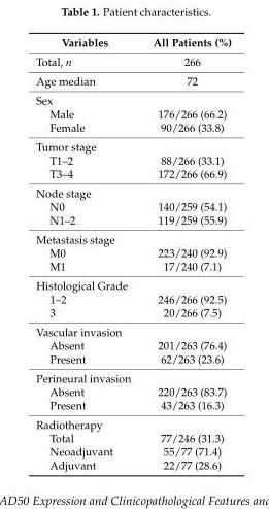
<table><thead><tr><td>Variables</td><td>All Patients (%)</td></tr></thead><tbody><tr><td>Total, n</td><td>266</td></tr><tr><td>Age median</td><td>72</td></tr><tr><td colspan="2">Sex</td></tr><tr><td>Male</td><td>176/266 (66.2)</td></tr><tr><td>Female</td><td>90/266 (33.8)</td></tr><tr><td colspan="2">Tumor stage</td></tr><tr><td>T1–2</td><td>88/266 (33.1)</td></tr><tr><td>T3–4</td><td>172/266 (66.9)</td></tr><tr><td colspan="2">Node stage</td></tr><tr><td>N0</td><td>140/259 (54.1)</td></tr><tr><td>N1–2</td><td>119/259 (55.9)</td></tr><tr><td colspan="2">Metastasis stage</td></tr><tr><td>M0</td><td>223/240 (92.9)</td></tr><tr><td>M1</td><td>17/240 (7.1)</td></tr><tr><td colspan="2">Histological Grade</td></tr><tr><td>1–2</td><td>246/266 (92.5)</td></tr><tr><td>3</td><td>20/266 (7.5)</td></tr><tr><td colspan="2">Vascular invasion</td></tr><tr><td>Absent</td><td>201/263 (76.4)</td></tr><tr><td>Present</td><td>62/263 (23.6)</td></tr><tr><td colspan="2">Perineural invasion</td></tr><tr><td>Absent</td><td>220/263 (83.7)</td></tr><tr><td>Present</td><td>43/263 (16.3)</td></tr><tr><td colspan="2">Radiotherapy</td></tr><tr><td>Total</td><td>77/246 (31.3)</td></tr><tr><td>Neoadjuvant</td><td>55/77 (71.4)</td></tr><tr><td>Adjuvant</td><td>22/77 (28.6)</td></tr></tbody></table>